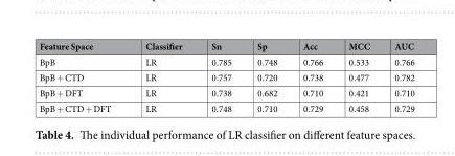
<table><thead><tr><td>Feature Space</td><td>Classifier</td><td>Sn</td><td>Sp</td><td>Acc</td><td>MCC</td><td>AUC</td></tr></thead><tbody><tr><td>BpB</td><td>LR</td><td>0.785</td><td>0.748</td><td>0.766</td><td>0.533</td><td>0.766</td></tr><tr><td>BpB + CTD</td><td>LR</td><td>0.757</td><td>0.720</td><td>0.738</td><td>0.477</td><td>0.782</td></tr><tr><td>BpB + DFT</td><td>LR</td><td>0.738</td><td>0.682</td><td>0.710</td><td>0.421</td><td>0.710</td></tr><tr><td>BpB + CTD + DFT</td><td>LR</td><td>0.748</td><td>0.710</td><td>0.729</td><td>0.458</td><td>0.729</td></tr></tbody></table>